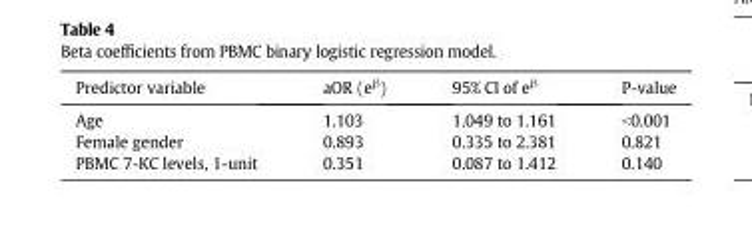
<table><thead><tr><td>Predictor variable</td><td>aOR (e<sup>β</sup>)</td><td>95% CI of e<sup>β</sup></td><td>P-value</td></tr></thead><tbody><tr><td>Age</td><td>1.103</td><td>1.049 to 1.161</td><td>&lt;0.001</td></tr><tr><td>Female gender</td><td>0.893</td><td>0.335 to 2.381</td><td>0.821</td></tr><tr><td>PBMC 7-KC levels, 1-unit</td><td>0.351</td><td>0.087 to 1.412</td><td>0.140</td></tr></tbody></table>